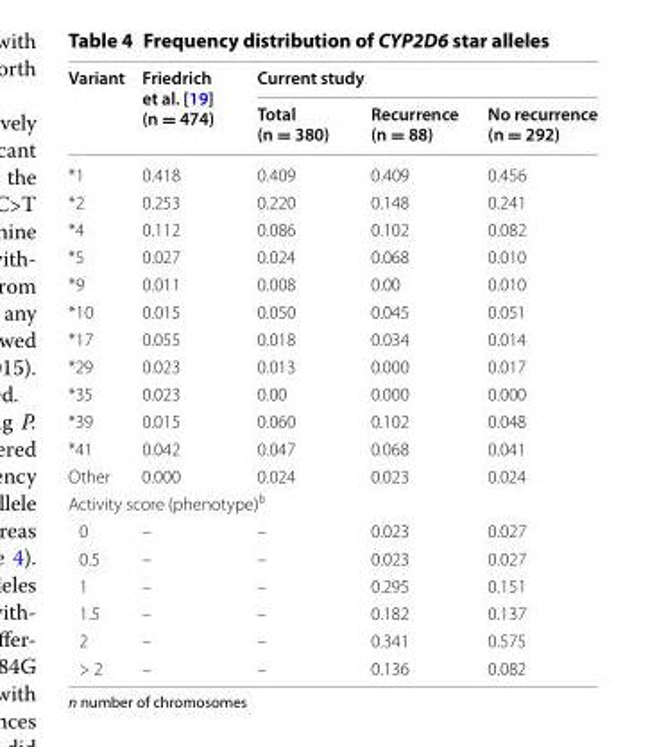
<table><thead><tr><td rowspan="2">Variant</td><td rowspan="2">Friedrich et al. [19] (n = 474)</td><td colspan="3">Current study</td></tr><tr><td>Total (n = 380)</td><td>Recurrence (n = 88)</td><td>No recurrence (n = 292)</td></tr></thead><tbody><tr><td>*1</td><td>0.418</td><td>0.409</td><td>0.409</td><td>0.456</td></tr><tr><td>*2</td><td>0.253</td><td>0.220</td><td>0.148</td><td>0.241</td></tr><tr><td>*4</td><td>0.112</td><td>0.086</td><td>0.102</td><td>0.082</td></tr><tr><td>*5</td><td>0.027</td><td>0.024</td><td>0.068</td><td>0.010</td></tr><tr><td>*9</td><td>0.011</td><td>0.008</td><td>0.00</td><td>0.010</td></tr><tr><td>*10</td><td>0.015</td><td>0.050</td><td>0.045</td><td>0.051</td></tr><tr><td>*17</td><td>0.055</td><td>0.018</td><td>0.034</td><td>0.014</td></tr><tr><td>*29</td><td>0.023</td><td>0.013</td><td>0.000</td><td>0.017</td></tr><tr><td>*35</td><td>0.023</td><td>0.00</td><td>0.000</td><td>0.000</td></tr><tr><td>*39</td><td>0.015</td><td>0.060</td><td>0.102</td><td>0.048</td></tr><tr><td>*41</td><td>0.042</td><td>0.047</td><td>0.068</td><td>0.041</td></tr><tr><td>Other</td><td>0.000</td><td>0.024</td><td>0.023</td><td>0.024</td></tr><tr><td colspan="5">Activity score (phenotype)<sup>b</sup></td></tr><tr><td>0</td><td>–</td><td>–</td><td>0.023</td><td>0.027</td></tr><tr><td>0.5</td><td>–</td><td>–</td><td>0.023</td><td>0.027</td></tr><tr><td>1</td><td>–</td><td>–</td><td>0.295</td><td>0.151</td></tr><tr><td>1.5</td><td>–</td><td>–</td><td>0.182</td><td>0.137</td></tr><tr><td>2</td><td>–</td><td>–</td><td>0.341</td><td>0.575</td></tr><tr><td>&gt; 2</td><td>–</td><td>–</td><td>0.136</td><td>0.082</td></tr></tbody></table>